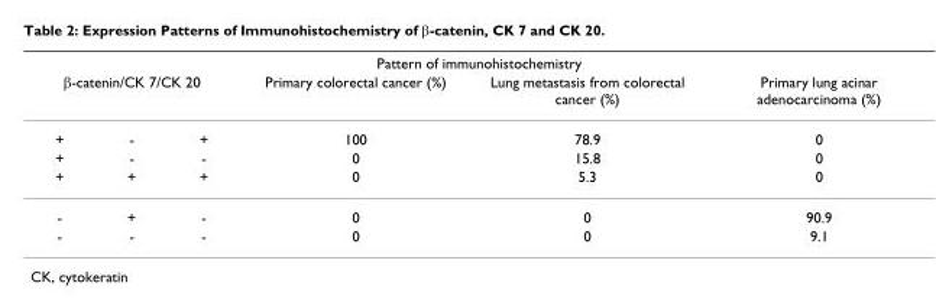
<table><thead><tr><td colspan="6">Pattern of immunohistochemistry</td></tr><tr><td colspan="3">β-catenin/CK 7/CK 20</td><td rowspan="2">Primary colorectal cancer (%) 100</td><td rowspan="2">Lung metastasis from colorectal cancer (%) 78.9</td><td rowspan="2">Primary lung acinar adenocarcinoma (%) 0</td></tr><tr><td>+</td><td>-</td><td>+</td></tr></thead><tbody><tr><td>+</td><td>-</td><td>-</td><td>0</td><td>15.8</td><td>0</td></tr><tr><td>+</td><td>+</td><td>+</td><td>0</td><td>5.3</td><td>0</td></tr><tr><td>-</td><td>+</td><td>-</td><td>0</td><td>0</td><td>90.9</td></tr><tr><td>-</td><td>-</td><td>-</td><td>0</td><td>0</td><td>9.1</td></tr></tbody></table>